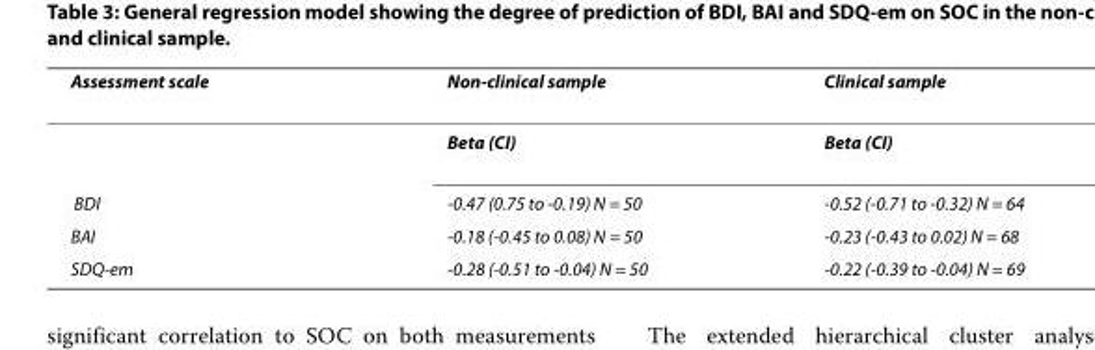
<table><thead><tr><td>Assessment scale</td><td>Non-clinical sample</td><td>Clinical sample</td></tr></thead><tbody><tr><td></td><td>Beta (CI)</td><td>Beta (CI)</td></tr><tr><td>BDI</td><td>-0.47 (0.75 to -0.19) N = 50</td><td>-0.52 (-0.71 to -0.32) N = 64</td></tr><tr><td>BAI</td><td>-0.18 (-0.45 to 0.08) N = 50</td><td>-0.23 (-0.43 to 0.02) N = 68</td></tr><tr><td>SDQ-em</td><td>-0.28 (-0.51 to -0.04) N = 50</td><td>-0.22 (-0.39 to -0.04) N = 69</td></tr></tbody></table>